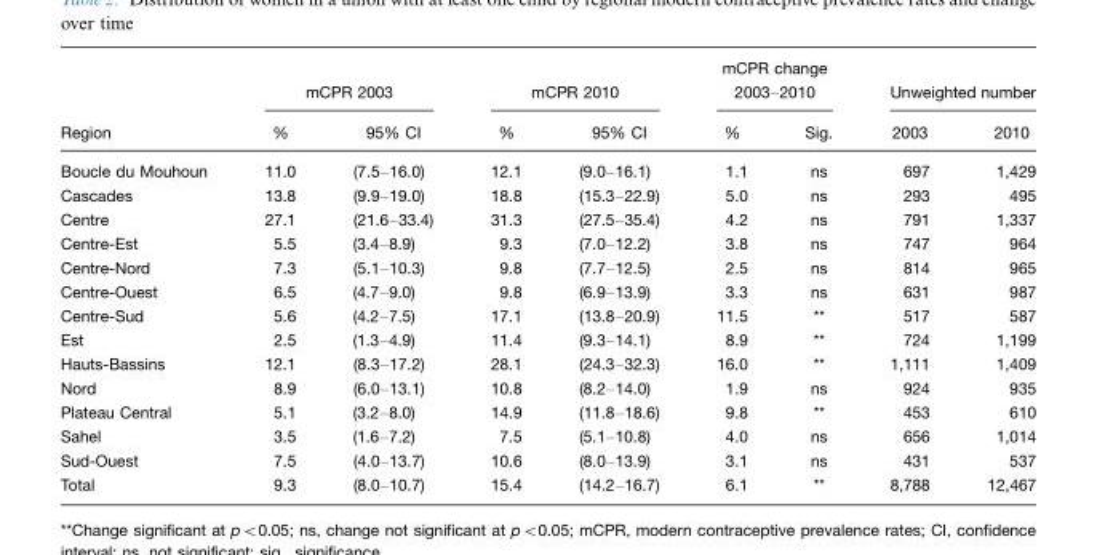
<table><thead><tr><td rowspan="2">Region</td><td colspan="2">mCPR 2003</td><td colspan="2">mCPR 2010</td><td colspan="2">mCPR change 2003–2010</td><td colspan="2">Unweighted number</td></tr><tr><td>%</td><td>95% CI</td><td>%</td><td>95% CI</td><td>%</td><td>Sig.</td><td>2003</td><td>2010</td></tr></thead><tbody><tr><td>Boucle du Mouhoun</td><td>11.0</td><td>(7.5–16.0)</td><td>12.1</td><td>(9.0–16.1)</td><td>1.1</td><td>ns</td><td>697</td><td>1,429</td></tr><tr><td>Cascades</td><td>13.8</td><td>(9.9–19.0)</td><td>18.8</td><td>(15.3–22.9)</td><td>5.0</td><td>ns</td><td>293</td><td>495</td></tr><tr><td>Centre</td><td>27.1</td><td>(21.6–33.4)</td><td>31.3</td><td>(27.5–35.4)</td><td>4.2</td><td>ns</td><td>791</td><td>1,337</td></tr><tr><td>Centre-Est</td><td>5.5</td><td>(3.4–8.9)</td><td>9.3</td><td>(7.0–12.2)</td><td>3.8</td><td>ns</td><td>747</td><td>964</td></tr><tr><td>Centre-Nord</td><td>7.3</td><td>(5.1–10.3)</td><td>9.8</td><td>(7.7–12.5)</td><td>2.5</td><td>ns</td><td>814</td><td>965</td></tr><tr><td>Centre-Ouest</td><td>6.5</td><td>(4.7–9.0)</td><td>9.8</td><td>(6.9–13.9)</td><td>3.3</td><td>ns</td><td>631</td><td>987</td></tr><tr><td>Centre-Sud</td><td>5.6</td><td>(4.2–7.5)</td><td>17.1</td><td>(13.8–20.9)</td><td>11.5</td><td>**</td><td>517</td><td>587</td></tr><tr><td>Est</td><td>2.5</td><td>(1.3–4.9)</td><td>11.4</td><td>(9.3–14.1)</td><td>8.9</td><td>**</td><td>724</td><td>1,199</td></tr><tr><td>Hauts-Bassins</td><td>12.1</td><td>(8.3–17.2)</td><td>28.1</td><td>(24.3–32.3)</td><td>16.0</td><td>**</td><td>1,111</td><td>1,409</td></tr><tr><td>Nord</td><td>8.9</td><td>(6.0–13.1)</td><td>10.8</td><td>(8.2–14.0)</td><td>1.9</td><td>ns</td><td>924</td><td>935</td></tr><tr><td>Plateau Central</td><td>5.1</td><td>(3.2–8.0)</td><td>14.9</td><td>(11.8–18.6)</td><td>9.8</td><td>**</td><td>453</td><td>610</td></tr><tr><td>Sahel</td><td>3.5</td><td>(1.6–7.2)</td><td>7.5</td><td>(5.1–10.8)</td><td>4.0</td><td>ns</td><td>656</td><td>1,014</td></tr><tr><td>Sud-Ouest</td><td>7.5</td><td>(4.0–13.7)</td><td>10.6</td><td>(8.0–13.9)</td><td>3.1</td><td>ns</td><td>431</td><td>537</td></tr><tr><td>Total</td><td>9.3</td><td>(8.0–10.7)</td><td>15.4</td><td>(14.2–16.7)</td><td>6.1</td><td>**</td><td>8,788</td><td>12,467</td></tr></tbody></table>